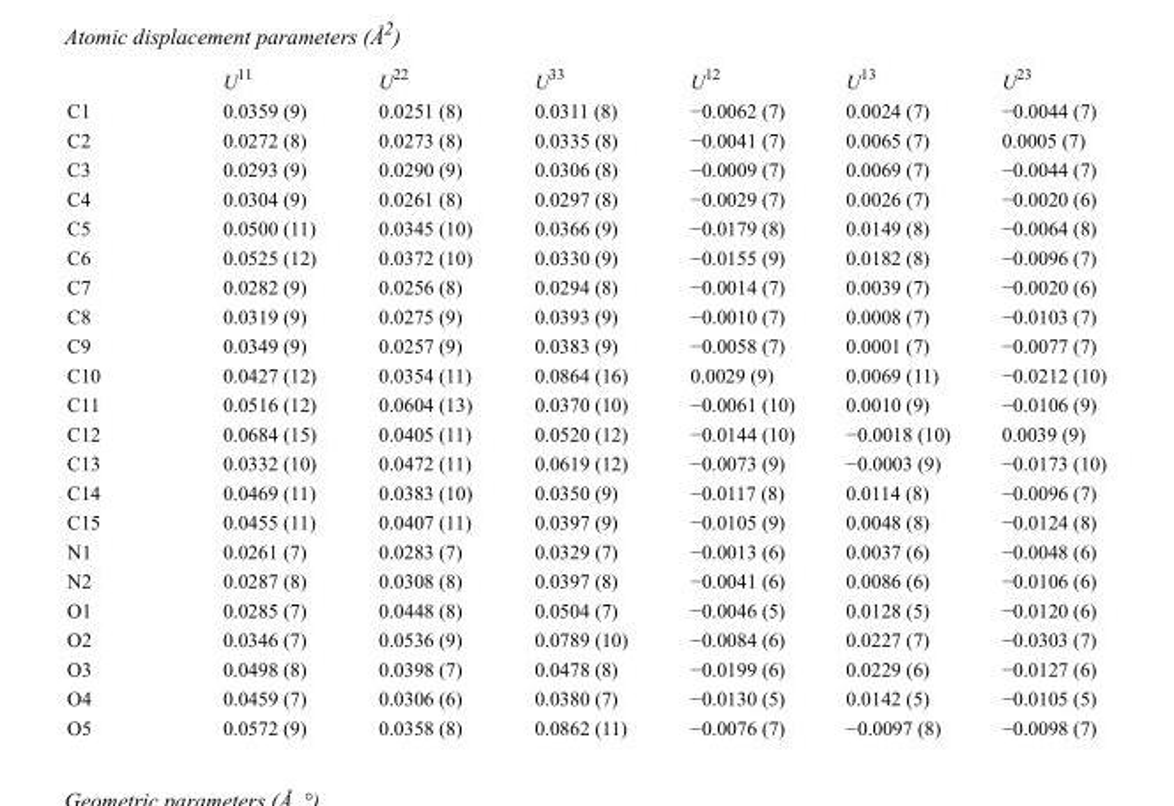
<table><thead><tr><td></td><td>U<sup>11</sup></td><td>U<sup>22</sup></td><td>U<sup>33</sup></td><td>U<sup>12</sup></td><td>U<sup>13</sup></td><td>U<sup>23</sup></td></tr></thead><tbody><tr><td>C1</td><td>0.0359 (9)</td><td>0.0251 (8)</td><td>0.0311 (8)</td><td>−0.0062 (7)</td><td>0.0024 (7)</td><td>−0.0044 (7)</td></tr><tr><td>C2</td><td>0.0272 (8)</td><td>0.0273 (8)</td><td>0.0335 (8)</td><td>−0.0041 (7)</td><td>0.0065 (7)</td><td>0.0005 (7)</td></tr><tr><td>C3</td><td>0.0293 (9)</td><td>0.0290 (9)</td><td>0.0306 (8)</td><td>−0.0009 (7)</td><td>0.0069 (7)</td><td>−0.0044 (7)</td></tr><tr><td>C4</td><td>0.0304 (9)</td><td>0.0261 (8)</td><td>0.0297 (8)</td><td>−0.0029 (7)</td><td>0.0026 (7)</td><td>−0.0020 (6)</td></tr><tr><td>C5</td><td>0.0500 (11)</td><td>0.0345 (10)</td><td>0.0366 (9)</td><td>−0.0179 (8)</td><td>0.0149 (8)</td><td>−0.0064 (8)</td></tr><tr><td>C6</td><td>0.0525 (12)</td><td>0.0372 (10)</td><td>0.0330 (9)</td><td>−0.0155 (9)</td><td>0.0182 (8)</td><td>−0.0096 (7)</td></tr><tr><td>C7</td><td>0.0282 (9)</td><td>0.0256 (8)</td><td>0.0294 (8)</td><td>−0.0014 (7)</td><td>0.0039 (7)</td><td>−0.0020 (6)</td></tr><tr><td>C8</td><td>0.0319 (9)</td><td>0.0275 (9)</td><td>0.0393 (9)</td><td>−0.0010 (7)</td><td>0.0008 (7)</td><td>−0.0103 (7)</td></tr><tr><td>C9</td><td>0.0349 (9)</td><td>0.0257 (9)</td><td>0.0383 (9)</td><td>−0.0058 (7)</td><td>0.0001 (7)</td><td>−0.0077 (7)</td></tr><tr><td>C10</td><td>0.0427 (12)</td><td>0.0354 (11)</td><td>0.0864 (16)</td><td>0.0029 (9)</td><td>0.0069 (11)</td><td>−0.0212 (10)</td></tr><tr><td>C11</td><td>0.0516 (12)</td><td>0.0604 (13)</td><td>0.0370 (10)</td><td>−0.0061 (10)</td><td>0.0010 (9)</td><td>−0.0106 (9)</td></tr><tr><td>C12</td><td>0.0684 (15)</td><td>0.0405 (11)</td><td>0.0520 (12)</td><td>−0.0144 (10)</td><td>−0.0018 (10)</td><td>0.0039 (9)</td></tr><tr><td>C13</td><td>0.0332 (10)</td><td>0.0472 (11)</td><td>0.0619 (12)</td><td>−0.0073 (9)</td><td>−0.0003 (9)</td><td>−0.0173 (10)</td></tr><tr><td>C14</td><td>0.0469 (11)</td><td>0.0383 (10)</td><td>0.0350 (9)</td><td>−0.0117 (8)</td><td>0.0114 (8)</td><td>−0.0096 (7)</td></tr><tr><td>C15</td><td>0.0455 (11)</td><td>0.0407 (11)</td><td>0.0397 (9)</td><td>−0.0105 (9)</td><td>0.0048 (8)</td><td>−0.0124 (8)</td></tr><tr><td>N1</td><td>0.0261 (7)</td><td>0.0283 (7)</td><td>0.0329 (7)</td><td>−0.0013 (6)</td><td>0.0037 (6)</td><td>−0.0048 (6)</td></tr><tr><td>N2</td><td>0.0287 (8)</td><td>0.0308 (8)</td><td>0.0397 (8)</td><td>−0.0041 (6)</td><td>0.0086 (6)</td><td>−0.0106 (6)</td></tr><tr><td>O1</td><td>0.0285 (7)</td><td>0.0448 (8)</td><td>0.0504 (7)</td><td>−0.0046 (5)</td><td>0.0128 (5)</td><td>−0.0120 (6)</td></tr><tr><td>O2</td><td>0.0346 (7)</td><td>0.0536 (9)</td><td>0.0789 (10)</td><td>−0.0084 (6)</td><td>0.0227 (7)</td><td>−0.0303 (7)</td></tr><tr><td>O3</td><td>0.0498 (8)</td><td>0.0398 (7)</td><td>0.0478 (8)</td><td>−0.0199 (6)</td><td>0.0229 (6)</td><td>−0.0127 (6)</td></tr><tr><td>O4</td><td>0.0459 (7)</td><td>0.0306 (6)</td><td>0.0380 (7)</td><td>−0.0130 (5)</td><td>0.0142 (5)</td><td>−0.0105 (5)</td></tr><tr><td>O5</td><td>0.0572 (9)</td><td>0.0358 (8)</td><td>0.0862 (11)</td><td>−0.0076 (7)</td><td>−0.0097 (8)</td><td>−0.0098 (7)</td></tr></tbody></table>